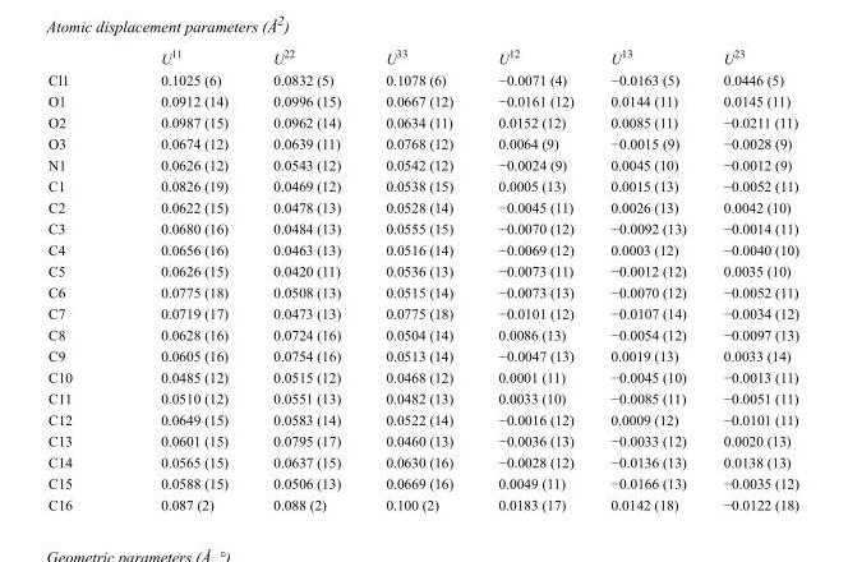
<table><thead><tr><td></td><td>U<sup>11</sup></td><td>U<sup>22</sup></td><td>U<sup>33</sup></td><td>U<sup>12</sup></td><td>U<sup>13</sup></td><td>U<sup>23</sup></td></tr></thead><tbody><tr><td>Cl1</td><td>0.1025 (6)</td><td>0.0832 (5)</td><td>0.1078 (6)</td><td>−0.0071 (4)</td><td>−0.0163 (5)</td><td>0.0446 (5)</td></tr><tr><td>O1</td><td>0.0912 (14)</td><td>0.0996 (15)</td><td>0.0667 (12)</td><td>−0.0161 (12)</td><td>0.0144 (11)</td><td>0.0145 (11)</td></tr><tr><td>O2</td><td>0.0987 (15)</td><td>0.0962 (14)</td><td>0.0634 (11)</td><td>0.0152 (12)</td><td>0.0085 (11)</td><td>−0.0211 (11)</td></tr><tr><td>O3</td><td>0.0674 (12)</td><td>0.0639 (11)</td><td>0.0768 (12)</td><td>0.0064 (9)</td><td>−0.0015 (9)</td><td>−0.0028 (9)</td></tr><tr><td>N1</td><td>0.0626 (12)</td><td>0.0543 (12)</td><td>0.0542 (12)</td><td>−0.0024 (9)</td><td>0.0045 (10)</td><td>−0.0012 (9)</td></tr><tr><td>C1</td><td>0.0826 (19)</td><td>0.0469 (12)</td><td>0.0538 (15)</td><td>0.0005 (13)</td><td>0.0015 (13)</td><td>−0.0052 (11)</td></tr><tr><td>C2</td><td>0.0622 (15)</td><td>0.0478 (13)</td><td>0.0528 (14)</td><td>−0.0045 (11)</td><td>0.0026 (13)</td><td>0.0042 (10)</td></tr><tr><td>C3</td><td>0.0680 (16)</td><td>0.0484 (13)</td><td>0.0555 (15)</td><td>−0.0070 (12)</td><td>−0.0092 (13)</td><td>−0.0014 (11)</td></tr><tr><td>C4</td><td>0.0656 (16)</td><td>0.0463 (13)</td><td>0.0516 (14)</td><td>−0.0069 (12)</td><td>0.0003 (12)</td><td>−0.0040 (10)</td></tr><tr><td>C5</td><td>0.0626 (15)</td><td>0.0420 (11)</td><td>0.0536 (13)</td><td>−0.0073 (11)</td><td>−0.0012 (12)</td><td>0.0035 (10)</td></tr><tr><td>C6</td><td>0.0775 (18)</td><td>0.0508 (13)</td><td>0.0515 (14)</td><td>−0.0073 (13)</td><td>−0.0070 (12)</td><td>−0.0052 (11)</td></tr><tr><td>C7</td><td>0.0719 (17)</td><td>0.0473 (13)</td><td>0.0775 (18)</td><td>−0.0101 (12)</td><td>−0.0107 (14)</td><td>−0.0034 (12)</td></tr><tr><td>C8</td><td>0.0628 (16)</td><td>0.0724 (16)</td><td>0.0504 (14)</td><td>0.0086 (13)</td><td>−0.0054 (12)</td><td>−0.0097 (13)</td></tr><tr><td>C9</td><td>0.0605 (16)</td><td>0.0754 (16)</td><td>0.0513 (14)</td><td>−0.0047 (13)</td><td>0.0019 (13)</td><td>0.0033 (14)</td></tr><tr><td>C10</td><td>0.0485 (12)</td><td>0.0515 (12)</td><td>0.0468 (12)</td><td>0.0001 (11)</td><td>−0.0045 (10)</td><td>−0.0013 (11)</td></tr><tr><td>C11</td><td>0.0510 (12)</td><td>0.0551 (13)</td><td>0.0482 (13)</td><td>0.0033 (10)</td><td>−0.0085 (11)</td><td>−0.0051 (11)</td></tr><tr><td>C12</td><td>0.0649 (15)</td><td>0.0583 (14)</td><td>0.0522 (14)</td><td>−0.0016 (12)</td><td>0.0009 (12)</td><td>−0.0101 (11)</td></tr><tr><td>C13</td><td>0.0601 (15)</td><td>0.0795 (17)</td><td>0.0460 (13)</td><td>−0.0036 (13)</td><td>−0.0033 (12)</td><td>0.0020 (13)</td></tr><tr><td>C14</td><td>0.0565 (15)</td><td>0.0637 (15)</td><td>0.0630 (16)</td><td>−0.0028 (12)</td><td>−0.0136 (13)</td><td>0.0138 (13)</td></tr><tr><td>C15</td><td>0.0588 (15)</td><td>0.0506 (13)</td><td>0.0669 (16)</td><td>0.0049 (11)</td><td>−0.0166 (13)</td><td>−0.0035 (12)</td></tr><tr><td>C16</td><td>0.087 (2)</td><td>0.088 (2)</td><td>0.100 (2)</td><td>0.0183 (17)</td><td>0.0142 (18)</td><td>−0.0122 (18)</td></tr></tbody></table>